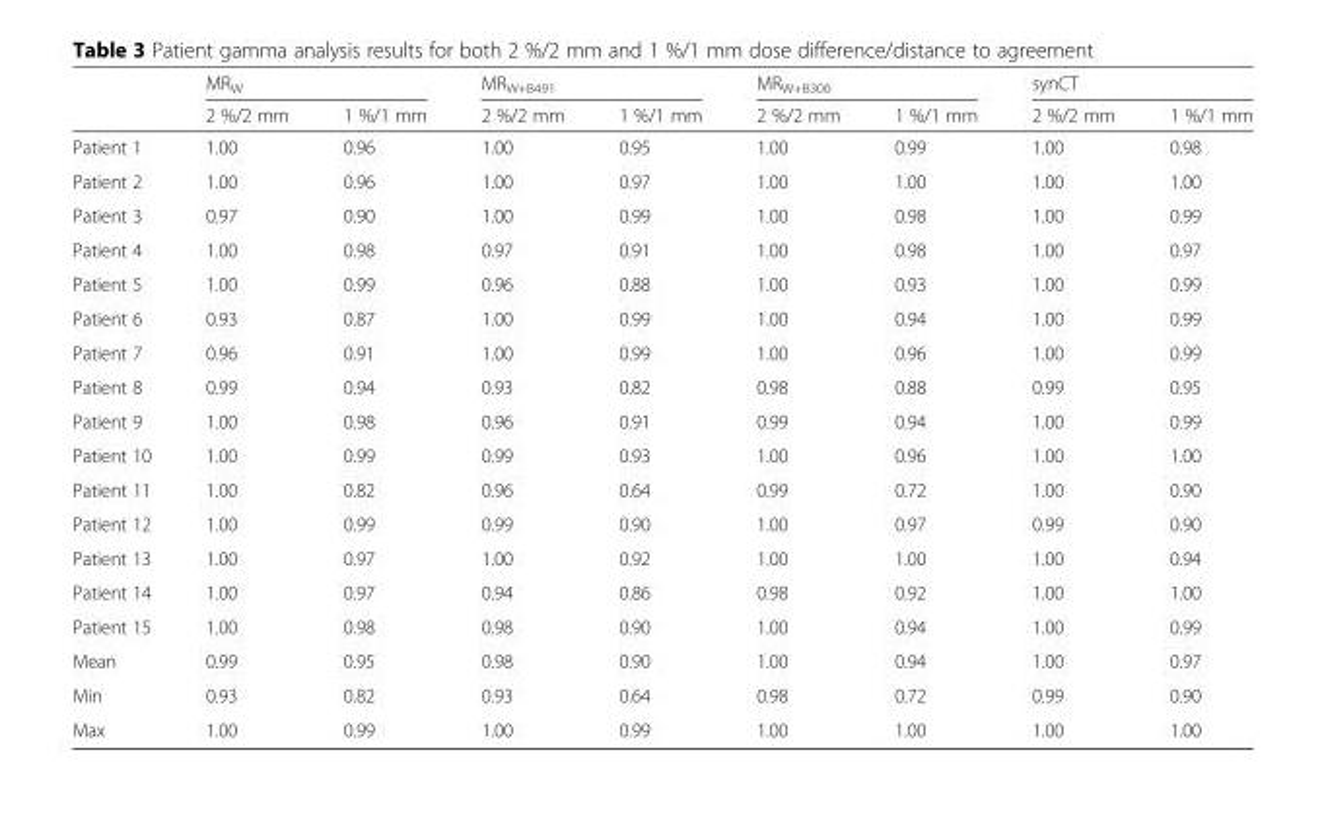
<table><thead><tr><td rowspan="2"></td><td colspan="2">MR<sub>W</sub></td><td colspan="2">MR<sub>W+B491</sub></td><td colspan="2">MR<sub>W+B300</sub></td><td colspan="2">synCT</td></tr><tr><td>2 %/2 mm</td><td>1 %/1 mm</td><td>2 %/2 mm</td><td>1 %/1 mm</td><td>2 %/2 mm</td><td>1 %/1 mm</td><td>2 %/2 mm</td><td>1 %/1 mm</td></tr></thead><tbody><tr><td>Patient 1</td><td>1.00</td><td>0.96</td><td>1.00</td><td>0.95</td><td>1.00</td><td>0.99</td><td>1.00</td><td>0.98</td></tr><tr><td>Patient 2</td><td>1.00</td><td>0.96</td><td>1.00</td><td>0.97</td><td>1.00</td><td>1.00</td><td>1.00</td><td>1.00</td></tr><tr><td>Patient 3</td><td>0.97</td><td>0.90</td><td>1.00</td><td>0.99</td><td>1.00</td><td>0.98</td><td>1.00</td><td>0.99</td></tr><tr><td>Patient 4</td><td>1.00</td><td>0.98</td><td>0.97</td><td>0.91</td><td>1.00</td><td>0.98</td><td>1.00</td><td>0.97</td></tr><tr><td>Patient 5</td><td>1.00</td><td>0.99</td><td>0.96</td><td>0.88</td><td>1.00</td><td>0.93</td><td>1.00</td><td>0.99</td></tr><tr><td>Patient 6</td><td>0.93</td><td>0.87</td><td>1.00</td><td>0.99</td><td>1.00</td><td>0.94</td><td>1.00</td><td>0.99</td></tr><tr><td>Patient 7</td><td>0.96</td><td>0.91</td><td>1.00</td><td>0.99</td><td>1.00</td><td>0.96</td><td>1.00</td><td>0.99</td></tr><tr><td>Patient 8</td><td>0.99</td><td>0.94</td><td>0.93</td><td>0.82</td><td>0.98</td><td>0.88</td><td>0.99</td><td>0.95</td></tr><tr><td>Patient 9</td><td>1.00</td><td>0.98</td><td>0.96</td><td>0.91</td><td>0.99</td><td>0.94</td><td>1.00</td><td>0.99</td></tr><tr><td>Patient 10</td><td>1.00</td><td>0.99</td><td>0.99</td><td>0.93</td><td>1.00</td><td>0.96</td><td>1.00</td><td>1.00</td></tr><tr><td>Patient 11</td><td>1.00</td><td>0.82</td><td>0.96</td><td>0.64</td><td>0.99</td><td>0.72</td><td>1.00</td><td>0.90</td></tr><tr><td>Patient 12</td><td>1.00</td><td>0.99</td><td>0.99</td><td>0.90</td><td>1.00</td><td>0.97</td><td>0.99</td><td>0.90</td></tr><tr><td>Patient 13</td><td>1.00</td><td>0.97</td><td>1.00</td><td>0.92</td><td>1.00</td><td>1.00</td><td>1.00</td><td>0.94</td></tr><tr><td>Patient 14</td><td>1.00</td><td>0.97</td><td>0.94</td><td>0.86</td><td>0.98</td><td>0.92</td><td>1.00</td><td>1.00</td></tr><tr><td>Patient 15</td><td>1.00</td><td>0.98</td><td>0.98</td><td>0.90</td><td>1.00</td><td>0.94</td><td>1.00</td><td>0.99</td></tr><tr><td>Mean</td><td>0.99</td><td>0.95</td><td>0.98</td><td>0.90</td><td>1.00</td><td>0.94</td><td>1.00</td><td>0.97</td></tr><tr><td>Min</td><td>0.93</td><td>0.82</td><td>0.93</td><td>0.64</td><td>0.98</td><td>0.72</td><td>0.99</td><td>0.90</td></tr><tr><td>Max</td><td>1.00</td><td>0.99</td><td>1.00</td><td>0.99</td><td>1.00</td><td>1.00</td><td>1.00</td><td>1.00</td></tr></tbody></table>